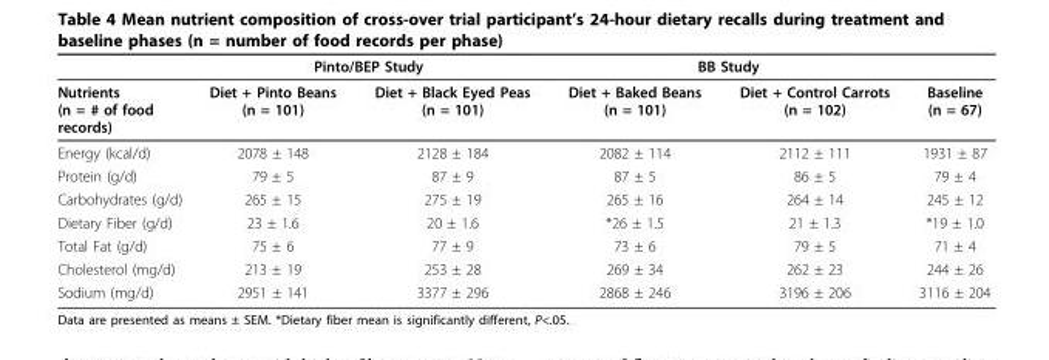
<table><thead><tr><td rowspan="2">Nutrients (n = # of food records)</td><td colspan="2">Pinto/BEP Study</td><td colspan="2">BB Study</td><td rowspan="2">Baseline (n = 67)</td></tr><tr><td>Diet + Pinto Beans (n = 101)</td><td>Diet + Black Eyed Peas (n = 101)</td><td>Diet + Baked Beans (n = 101)</td><td>Diet + Control Carrots (n = 102)</td></tr></thead><tbody><tr><td>Energy (kcal/d)</td><td>2078 ± 148</td><td>2128 ± 184</td><td>2082 ± 114</td><td>2112 ± 111</td><td>1931 ± 87</td></tr><tr><td>Protein (g/d)</td><td>79 ± 5</td><td>87 ± 9</td><td>87 ± 5</td><td>86 ± 5</td><td>79 ± 4</td></tr><tr><td>Carbohydrates (g/d)</td><td>265 ± 15</td><td>275 ± 19</td><td>265 ± 16</td><td>264 ± 14</td><td>245 ± 12</td></tr><tr><td>Dietary Fiber (g/d)</td><td>23 ± 1.6</td><td>20 ± 1.6</td><td>*26 ± 1.5</td><td>21 ± 1.3</td><td>*19 ± 1.0</td></tr><tr><td>Total Fat (g/d)</td><td>75 ± 6</td><td>77 ± 9</td><td>73 ± 6</td><td>79 ± 5</td><td>71 ± 4</td></tr><tr><td>Cholesterol (mg/d)</td><td>213 ± 19</td><td>253 ± 28</td><td>269 ± 34</td><td>262 ± 23</td><td>244 ± 26</td></tr><tr><td>Sodium (mg/d)</td><td>2951 ± 141</td><td>3377 ± 296</td><td>2868 ± 246</td><td>3196 ± 206</td><td>3116 ± 204</td></tr></tbody></table>